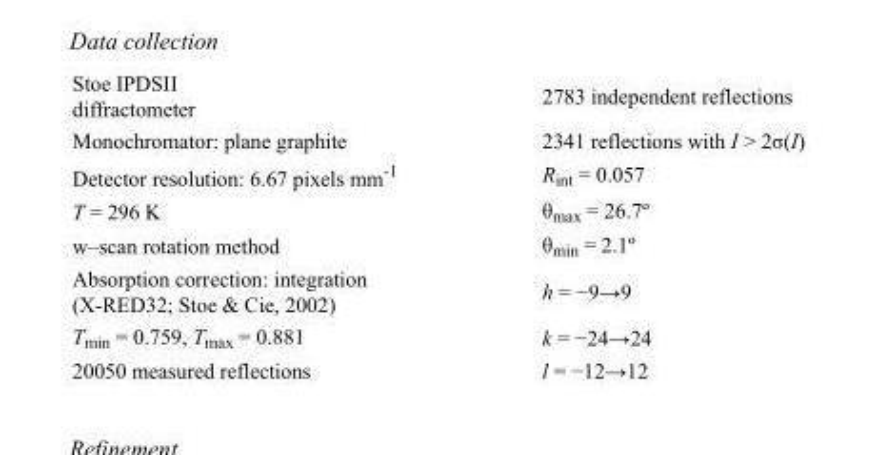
<table><tbody><tr><td>Stoe IPDSII diffractometer</td><td>2783 independent reflections</td></tr><tr><td>Monochromator: plane graphite</td><td>2341 reflections with I &gt; 2σ(I)</td></tr><tr><td>Detector resolution: 6.67 pixels mm<sup>-1</sup></td><td>R<sub>int</sub> = 0.057</td></tr><tr><td>T = 296 K</td><td>θ<sub>max</sub> = 26.7º</td></tr><tr><td>w–scan rotation method</td><td>θ<sub>min</sub> = 2.1º</td></tr><tr><td>Absorption correction: integration (X-RED32; Stoe &amp; Cie, 2002)</td><td>h = −9→9</td></tr><tr><td>T<sub>min</sub> = 0.759, T<sub>max</sub> = 0.881</td><td>k = −24→24</td></tr><tr><td>20050 measured reflections</td><td>l = −12→12</td></tr></tbody></table>